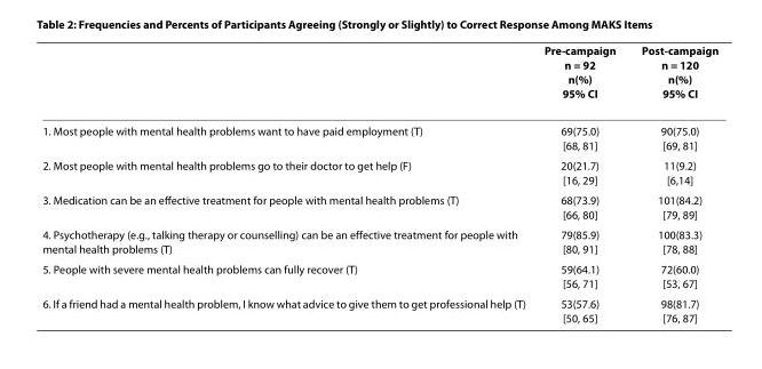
<table><thead><tr><td></td><td>Pre-campaign n = 92 n(%) 95% CI</td><td>Post-campaign n = 120 n(%) 95% CI</td></tr></thead><tbody><tr><td>1. Most people with mental health problems want to have paid employment (T)</td><td>69(75.0) [68, 81]</td><td>90(75.0) [69, 81]</td></tr><tr><td>2. Most people with mental health problems go to their doctor to get help (F)</td><td>20(21.7) [16, 29]</td><td>11(9.2) [6,14]</td></tr><tr><td>3. Medication can be an effective treatment for people with mental health problems (T)</td><td>68(73.9) [66, 80]</td><td>101(84.2) [79, 89]</td></tr><tr><td>4. Psychotherapy (e.g., talking therapy or counselling) can be an effective treatment for people with mental health problems (T)</td><td>79(85.9) [80, 91]</td><td>100(83.3) [78, 88]</td></tr><tr><td>5. People with severe mental health problems can fully recover (T)</td><td>59(64.1) [56, 71]</td><td>72(60.0) [53, 67]</td></tr><tr><td>6. If a friend had a mental health problem, I know what advice to give them to get professional help (T)</td><td>53(57.6) [50, 65]</td><td>98(81.7) [76, 87]</td></tr></tbody></table>